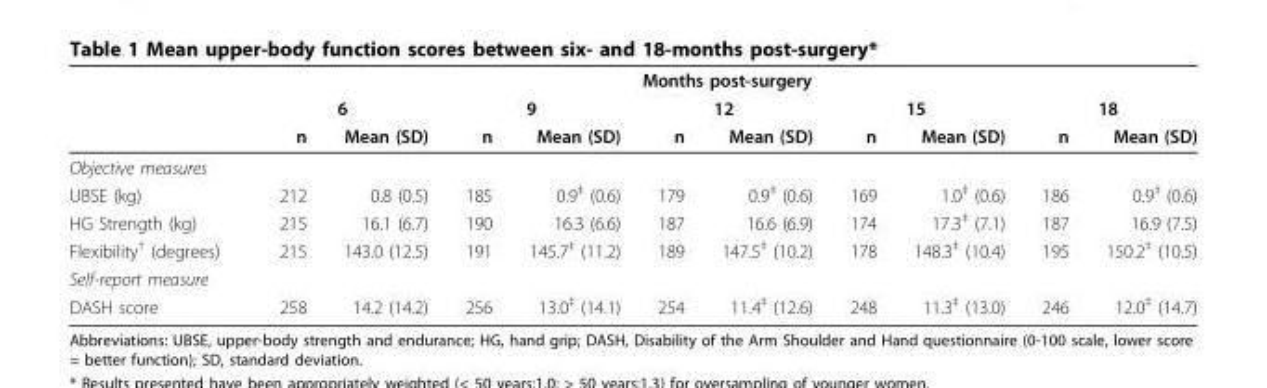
<table><thead><tr><td rowspan="3"></td><td colspan="10">Months post-surgery</td></tr><tr><td colspan="2">6</td><td colspan="2">9</td><td colspan="2">12</td><td colspan="2">15</td><td colspan="2">18</td></tr><tr><td>n</td><td>Mean (SD)</td><td>n</td><td>Mean (SD)</td><td>n</td><td>Mean (SD)</td><td>n</td><td>Mean (SD)</td><td>n</td><td>Mean (SD)</td></tr></thead><tbody><tr><td colspan="11">Objective measures</td></tr><tr><td>UBSE (kg)</td><td>212</td><td>0.8 (0.5)</td><td>185</td><td>0.9<sup>‡</sup> (0.6)</td><td>179</td><td>0.9<sup>‡</sup> (0.6)</td><td>169</td><td>1.0<sup>‡</sup> (0.6)</td><td>186</td><td>0.9<sup>‡</sup> (0.6)</td></tr><tr><td>HG Strength (kg)</td><td>215</td><td>16.1 (6.7)</td><td>190</td><td>16.3 (6.6)</td><td>187</td><td>16.6 (6.9)</td><td>174</td><td>17.3<sup>‡</sup> (7.1)</td><td>187</td><td>16.9 (7.5)</td></tr><tr><td>Flexibility<sup>†</sup> (degrees)</td><td>215</td><td>143.0 (12.5)</td><td>191</td><td>145.7<sup>‡</sup> (11.2)</td><td>189</td><td>147.5<sup>‡</sup> (10.2)</td><td>178</td><td>148.3<sup>‡</sup> (10.4)</td><td>195</td><td>150.2<sup>‡</sup> (10.5)</td></tr><tr><td colspan="11">Self-report measure</td></tr><tr><td>DASH score</td><td>258</td><td>14.2 (14.2)</td><td>256</td><td>13.0<sup>‡</sup> (14.1)</td><td>254</td><td>11.4<sup>‡</sup> (12.6)</td><td>248</td><td>11.3<sup>‡</sup> (13.0)</td><td>246</td><td>12.0<sup>‡</sup> (14.7)</td></tr></tbody></table>